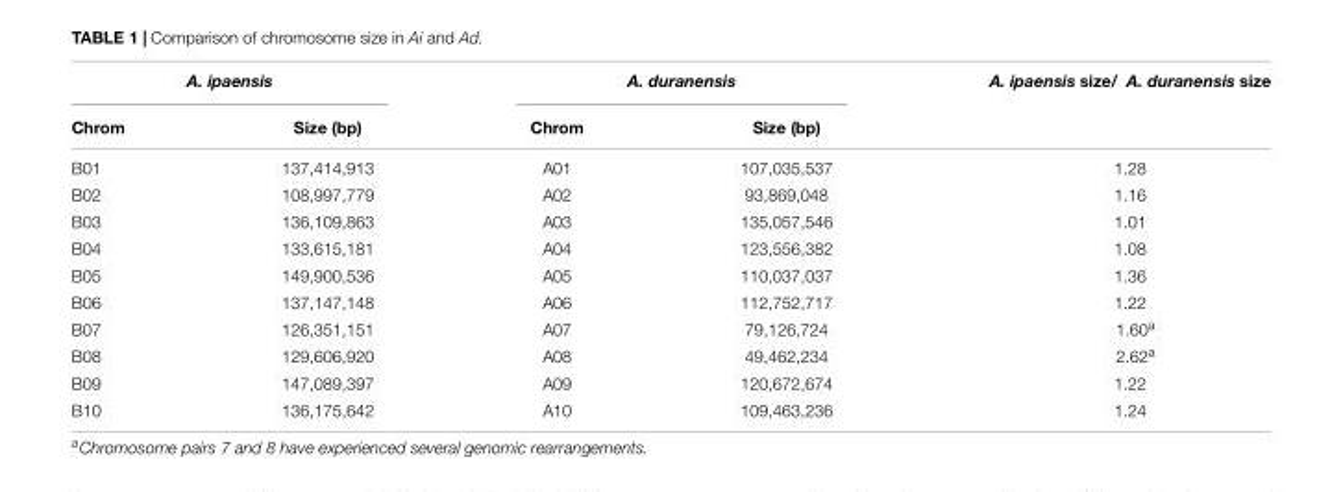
<table><thead><tr><td colspan="2">A. ipaensis</td><td colspan="2">A. duranensis</td><td rowspan="2">A. ipaensis size/ A. duranensis size</td></tr><tr><td>Chrom</td><td>Size (bp)</td><td>Chrom</td><td>Size (bp)</td></tr></thead><tbody><tr><td>B01</td><td>137,414,913</td><td>A01</td><td>107,035,537</td><td>1.28</td></tr><tr><td>B02</td><td>108,997,779</td><td>A02</td><td>93,869,048</td><td>1.16</td></tr><tr><td>B03</td><td>136,109,863</td><td>A03</td><td>135,057,546</td><td>1.01</td></tr><tr><td>B04</td><td>133,615,181</td><td>A04</td><td>123,556,382</td><td>1.08</td></tr><tr><td>B05</td><td>149,900,536</td><td>A05</td><td>110,037,037</td><td>1.36</td></tr><tr><td>B06</td><td>137,147,148</td><td>A06</td><td>112,752,717</td><td>1.22</td></tr><tr><td>B07</td><td>126,351,151</td><td>A07</td><td>79,126,724</td><td>1.60<sup>a</sup></td></tr><tr><td>B08</td><td>129,606,920</td><td>A08</td><td>49,462,234</td><td>2.62<sup>a</sup></td></tr><tr><td>B09</td><td>147,089,397</td><td>A09</td><td>120,672,674</td><td>1.22</td></tr><tr><td>B10</td><td>136,175,642</td><td>A10</td><td>109,463,236</td><td>1.24</td></tr></tbody></table>